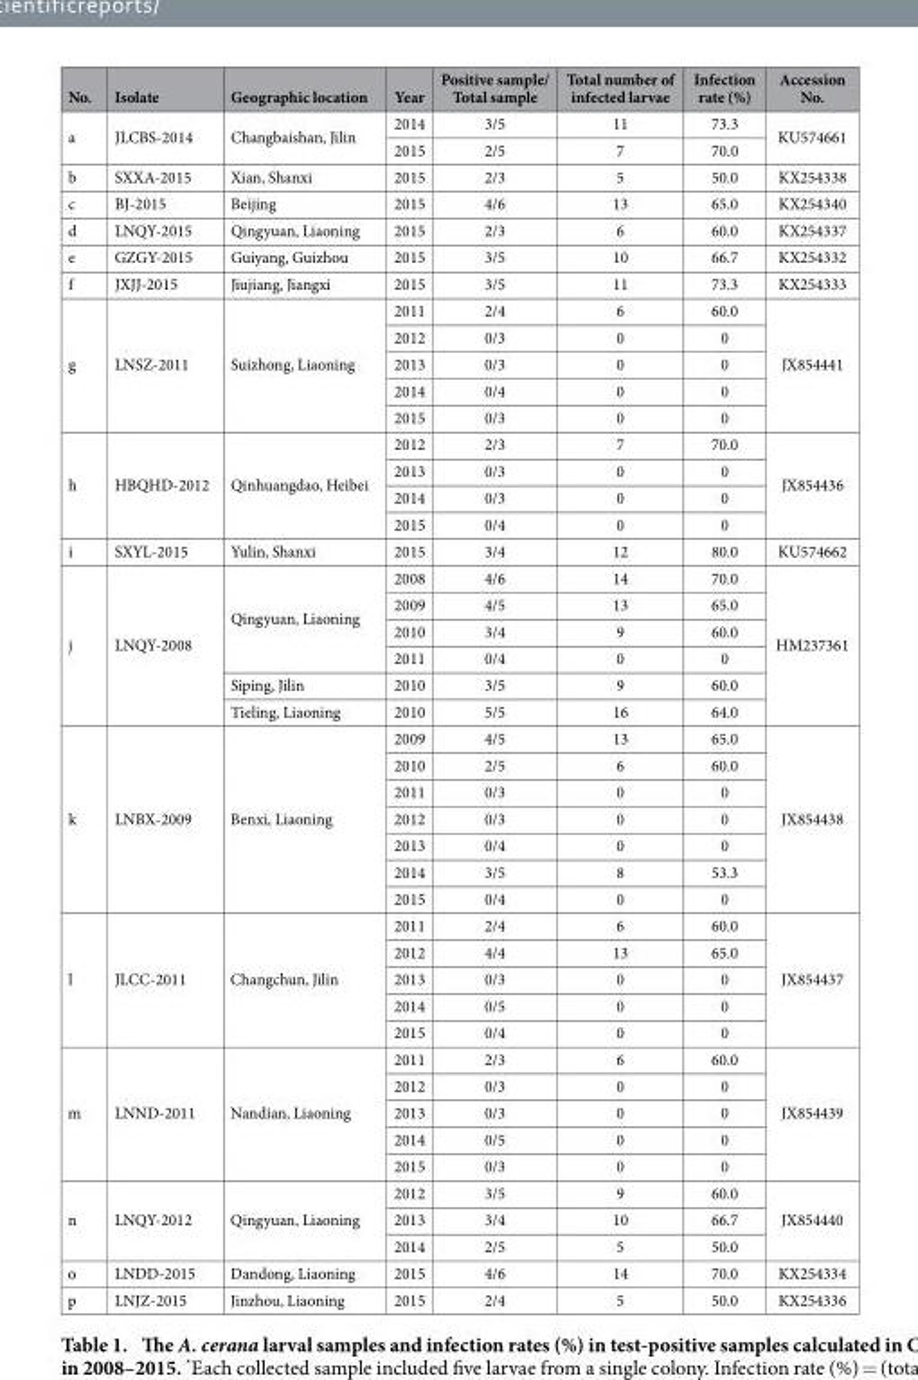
<table><thead><tr><td>No.</td><td>Isolate</td><td>Geographic location</td><td>Year</td><td>Positive sample/ Total sample</td><td>Total number of infected larvae</td><td>Infection rate (%)</td><td>Accession No.</td></tr></thead><tbody><tr><td rowspan="2">a</td><td rowspan="2">JLCBS-2014</td><td rowspan="2">Changbaishan, Jilin</td><td>2014</td><td>3/5</td><td>11</td><td>73.3</td><td rowspan="2">KU574661</td></tr><tr><td>2015</td><td>2/5</td><td>7</td><td>70.0</td></tr><tr><td>b</td><td>SXXA-2015</td><td>Xian, Shanxi</td><td>2015</td><td>2/3</td><td>5</td><td>50.0</td><td>KX254338</td></tr><tr><td>c</td><td>BJ-2015</td><td>Beijing</td><td>2015</td><td>4/6</td><td>13</td><td>65.0</td><td>KX254340</td></tr><tr><td>d</td><td>LNQY-2015</td><td>Qingyuan, Liaoning</td><td>2015</td><td>2/3</td><td>6</td><td>60.0</td><td>KX254337</td></tr><tr><td>e</td><td>GZGY-2015</td><td>Guiyang, Guizhou</td><td>2015</td><td>3/5</td><td>10</td><td>66.7</td><td>KX254332</td></tr><tr><td>f</td><td>JXJJ-2015</td><td>Jiujiang, Jiangxi</td><td>2015</td><td>3/5</td><td>11</td><td>73.3</td><td>KX254333</td></tr><tr><td rowspan="5">g</td><td rowspan="5">LNSZ-2011</td><td rowspan="5">Suizhong, Liaoning</td><td>2011</td><td>2/4</td><td>6</td><td>60.0</td><td rowspan="5">JX854441</td></tr><tr><td>2012</td><td>0/3</td><td>0</td><td>0</td></tr><tr><td>2013</td><td>0/3</td><td>0</td><td>0</td></tr><tr><td>2014</td><td>0/4</td><td>0</td><td>0</td></tr><tr><td>2015</td><td>0/3</td><td>0</td><td>0</td></tr><tr><td rowspan="4">h</td><td rowspan="4">HBQHD-2012</td><td rowspan="4">Qinhuangdao, Heibei</td><td>2012</td><td>2/3</td><td>7</td><td>70.0</td><td rowspan="4">JX854436</td></tr><tr><td>2013</td><td>0/3</td><td>0</td><td>0</td></tr><tr><td>2014</td><td>0/3</td><td>0</td><td>0</td></tr><tr><td>2015</td><td>0/4</td><td>0</td><td>0</td></tr><tr><td>i</td><td>SXYL-2015</td><td>Yulin, Shanxi</td><td>2015</td><td>3/4</td><td>12</td><td>80.0</td><td>KU574662</td></tr><tr><td rowspan="6">j</td><td rowspan="6">LNQY-2008</td><td rowspan="4">Qingyuan, Liaoning</td><td>2008</td><td>4/6</td><td>14</td><td>70.0</td><td rowspan="6">HM237361</td></tr><tr><td>2009</td><td>4/5</td><td>13</td><td>65.0</td></tr><tr><td>2010</td><td>3/4</td><td>9</td><td>60.0</td></tr><tr><td>2011</td><td>0/4</td><td>0</td><td>0</td></tr><tr><td>Siping, Jilin</td><td>2010</td><td>3/5</td><td>9</td><td>60.0</td></tr><tr><td>Tieling, Liaoning</td><td>2010</td><td>5/5</td><td>16</td><td>64.0</td></tr><tr><td rowspan="7">k</td><td rowspan="7">LNBX-2009</td><td rowspan="7">Benxi, Liaoning</td><td>2009</td><td>4/5</td><td>13</td><td>65.0</td><td rowspan="7">JX854438</td></tr><tr><td>2010</td><td>2/5</td><td>6</td><td>60.0</td></tr><tr><td>2011</td><td>0/3</td><td>0</td><td>0</td></tr><tr><td>2012</td><td>0/3</td><td>0</td><td>0</td></tr><tr><td>2013</td><td>0/4</td><td>0</td><td>0</td></tr><tr><td>2014</td><td>3/5</td><td>8</td><td>53.3</td></tr><tr><td>2015</td><td>0/4</td><td>0</td><td>0</td></tr><tr><td rowspan="5">l</td><td rowspan="5">JLCC-2011</td><td rowspan="5">Changchun, Jilin</td><td>2011</td><td>2/4</td><td>6</td><td>60.0</td><td rowspan="5">JX854437</td></tr><tr><td>2012</td><td>4/4</td><td>13</td><td>65.0</td></tr><tr><td>2013</td><td>0/3</td><td>0</td><td>0</td></tr><tr><td>2014</td><td>0/5</td><td>0</td><td>0</td></tr><tr><td>2015</td><td>0/4</td><td>0</td><td>0</td></tr><tr><td rowspan="5">m</td><td rowspan="5">LNND-2011</td><td rowspan="5">Nandian, Liaoning</td><td>2011</td><td>2/3</td><td>6</td><td>60.0</td><td rowspan="5">JX854439</td></tr><tr><td>2012</td><td>0/3</td><td>0</td><td>0</td></tr><tr><td>2013</td><td>0/3</td><td>0</td><td>0</td></tr><tr><td>2014</td><td>0/5</td><td>0</td><td>0</td></tr><tr><td>2015</td><td>0/3</td><td>0</td><td>0</td></tr><tr><td rowspan="3">n</td><td rowspan="3">LNQY-2012</td><td rowspan="3">Qingyuan, Liaoning</td><td>2012</td><td>3/5</td><td>9</td><td>60.0</td><td rowspan="3">JX854440</td></tr><tr><td>2013</td><td>3/4</td><td>10</td><td>66.7</td></tr><tr><td>2014</td><td>2/5</td><td>5</td><td>50.0</td></tr><tr><td>o</td><td>LNDD-2015</td><td>Dandong, Liaoning</td><td>2015</td><td>4/6</td><td>14</td><td>70.0</td><td>KX254334</td></tr><tr><td>p</td><td>LNJZ-2015</td><td>Jinzhou, Liaoning</td><td>2015</td><td>2/4</td><td>5</td><td>50.0</td><td>KX254336</td></tr></tbody></table>